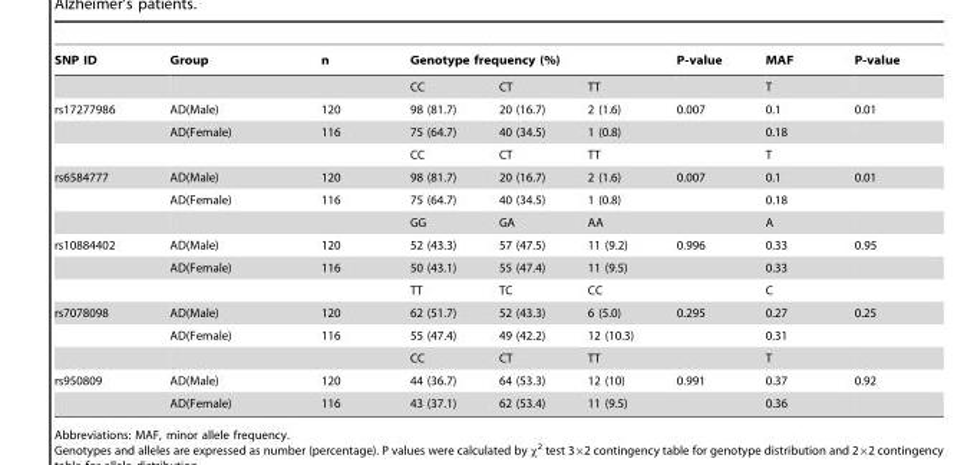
<table><thead><tr><td rowspan="2">SNP ID</td><td rowspan="2">Group</td><td rowspan="2">n</td><td colspan="3">Genotype frequency (%)</td><td rowspan="2">P-value</td><td rowspan="2">MAF T</td><td rowspan="2">P-value</td></tr><tr><td>CC</td><td>CT</td><td>TT</td></tr></thead><tbody><tr><td rowspan="3">rs17277986</td><td>AD(Male)</td><td>120</td><td>98 (81.7)</td><td>20 (16.7)</td><td>2 (1.6)</td><td>0.007</td><td>0.1</td><td>0.01</td></tr><tr><td>AD(Female)</td><td>116</td><td>75 (64.7)</td><td>40 (34.5)</td><td>1 (0.8)</td><td></td><td>0.18</td><td></td></tr><tr><td></td><td></td><td>CC</td><td>CT</td><td>TT</td><td></td><td>T</td><td></td></tr><tr><td rowspan="3">rs6584777</td><td>AD(Male)</td><td>120</td><td>98 (81.7)</td><td>20 (16.7)</td><td>2 (1.6)</td><td>0.007</td><td>0.1</td><td>0.01</td></tr><tr><td>AD(Female)</td><td>116</td><td>75 (64.7)</td><td>40 (34.5)</td><td>1 (0.8)</td><td></td><td>0.18</td><td></td></tr><tr><td></td><td></td><td>GG</td><td>GA</td><td>AA</td><td></td><td>A</td><td></td></tr><tr><td rowspan="3">rs10884402</td><td>AD(Male)</td><td>120</td><td>52 (43.3)</td><td>57 (47.5)</td><td>11 (9.2)</td><td>0.996</td><td>0.33</td><td>0.95</td></tr><tr><td>AD(Female)</td><td>116</td><td>50 (43.1)</td><td>55 (47.4)</td><td>11 (9.5)</td><td></td><td>0.33</td><td></td></tr><tr><td></td><td></td><td>TT</td><td>TC</td><td>CC</td><td></td><td>C</td><td></td></tr><tr><td rowspan="3">rs7078098</td><td>AD(Male)</td><td>120</td><td>62 (51.7)</td><td>52 (43.3)</td><td>6 (5.0)</td><td>0.295</td><td>0.27</td><td>0.25</td></tr><tr><td>AD(Female)</td><td>116</td><td>55 (47.4)</td><td>49 (42.2)</td><td>12 (10.3)</td><td></td><td>0.31</td><td></td></tr><tr><td></td><td></td><td>CC</td><td>CT</td><td>TT</td><td></td><td>T</td><td></td></tr><tr><td rowspan="2">rs950809</td><td>AD(Male)</td><td>120</td><td>44 (36.7)</td><td>64 (53.3)</td><td>12 (10)</td><td>0.991</td><td>0.37</td><td>0.92</td></tr><tr><td>AD(Female)</td><td>116</td><td>43 (37.1)</td><td>62 (53.4)</td><td>11 (9.5)</td><td></td><td>0.36</td><td></td></tr></tbody></table>